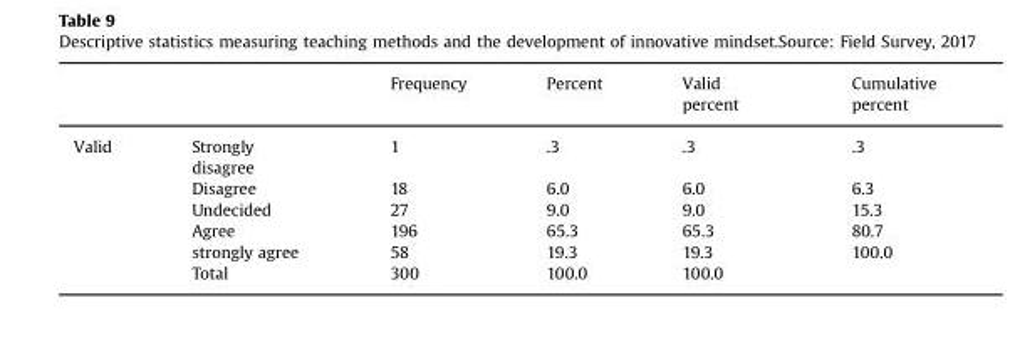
<table><thead><tr><td></td><td></td><td>Frequency</td><td>Percent</td><td>Valid percent</td><td>Cumulative percent</td></tr></thead><tbody><tr><td rowspan="6">Valid</td><td>Strongly disagree</td><td>1</td><td>.3</td><td>.3</td><td>.3</td></tr><tr><td>Disagree</td><td>18</td><td>6.0</td><td>6.0</td><td>6.3</td></tr><tr><td>Undecided</td><td>27</td><td>9.0</td><td>9.0</td><td>15.3</td></tr><tr><td>Agree</td><td>196</td><td>65.3</td><td>65.3</td><td>80.7</td></tr><tr><td>strongly agree</td><td>58</td><td>19.3</td><td>19.3</td><td>100.0</td></tr><tr><td>Total</td><td>300</td><td>100.0</td><td>100.0</td><td></td></tr></tbody></table>